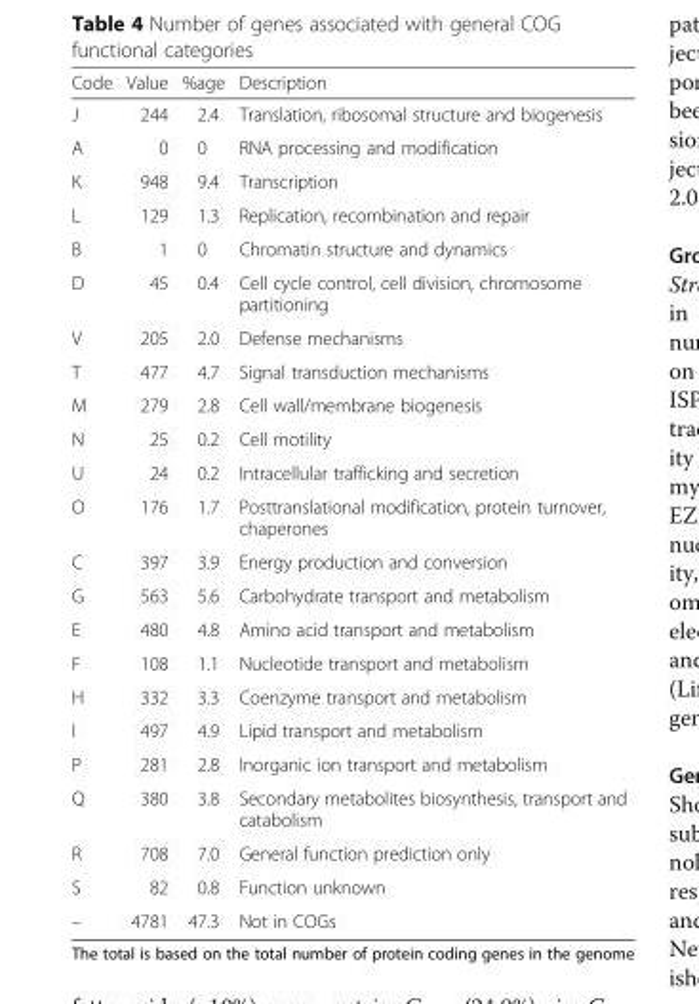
<table><thead><tr><td>Code</td><td>Value</td><td>%age</td><td>Description</td></tr></thead><tbody><tr><td>J</td><td>244</td><td>2.4</td><td>Translation, ribosomal structure and biogenesis</td></tr><tr><td>A</td><td>0</td><td>0</td><td>RNA processing and modification</td></tr><tr><td>K</td><td>948</td><td>9.4</td><td>Transcription</td></tr><tr><td>L</td><td>129</td><td>1.3</td><td>Replication, recombination and repair</td></tr><tr><td>B</td><td>1</td><td>0</td><td>Chromatin structure and dynamics</td></tr><tr><td>D</td><td>45</td><td>0.4</td><td>Cell cycle control, cell division, chromosome partitioning</td></tr><tr><td>V</td><td>205</td><td>2.0</td><td>Defense mechanisms</td></tr><tr><td>T</td><td>477</td><td>4.7</td><td>Signal transduction mechanisms</td></tr><tr><td>M</td><td>279</td><td>2.8</td><td>Cell wall/membrane biogenesis</td></tr><tr><td>N</td><td>25</td><td>0.2</td><td>Cell motility</td></tr><tr><td>U</td><td>24</td><td>0.2</td><td>Intracellular trafficking and secretion</td></tr><tr><td>O</td><td>176</td><td>1.7</td><td>Posttranslational modification, protein turnover, chaperones</td></tr><tr><td>C</td><td>397</td><td>3.9</td><td>Energy production and conversion</td></tr><tr><td>G</td><td>563</td><td>5.6</td><td>Carbohydrate transport and metabolism</td></tr><tr><td>E</td><td>480</td><td>4.8</td><td>Amino acid transport and metabolism</td></tr><tr><td>F</td><td>108</td><td>1.1</td><td>Nucleotide transport and metabolism</td></tr><tr><td>H</td><td>332</td><td>3.3</td><td>Coenzyme transport and metabolism</td></tr><tr><td>I</td><td>497</td><td>4.9</td><td>Lipid transport and metabolism</td></tr><tr><td>P</td><td>281</td><td>2.8</td><td>Inorganic ion transport and metabolism</td></tr><tr><td>Q</td><td>380</td><td>3.8</td><td>Secondary metabolites biosynthesis, transport and catabolism</td></tr><tr><td>R</td><td>708</td><td>7.0</td><td>General function prediction only</td></tr><tr><td>S</td><td>82</td><td>0.8</td><td>Function unknown</td></tr><tr><td>–</td><td>4781</td><td>47.3</td><td>Not in COGs</td></tr></tbody></table>